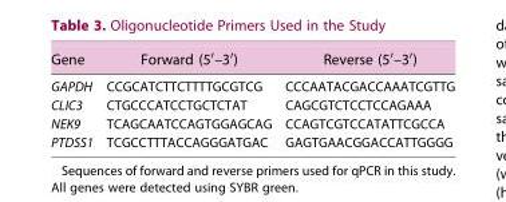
<table><thead><tr><td>Gene</td><td>Forward (5′–3′)</td><td>Reverse (5′–3′)</td></tr></thead><tbody><tr><td>GAPDH</td><td>CCGCATCTTCTTTTGCGTCG</td><td>CCCAATACGACCAAATCGTTG</td></tr><tr><td>CLIC3</td><td>CTGCCCATCCTGCTCTAT</td><td>CAGCGTCTCCTCCAGAAA</td></tr><tr><td>NEK9</td><td>TCAGCAATCCAGTGGAGCAG</td><td>CCAGTCGTCCATATTCGCCA</td></tr><tr><td>PTDSS1</td><td>TCGCCTTTACCAGGGATGAC</td><td>GAGTGAACGGACCATTGGGG</td></tr></tbody></table>